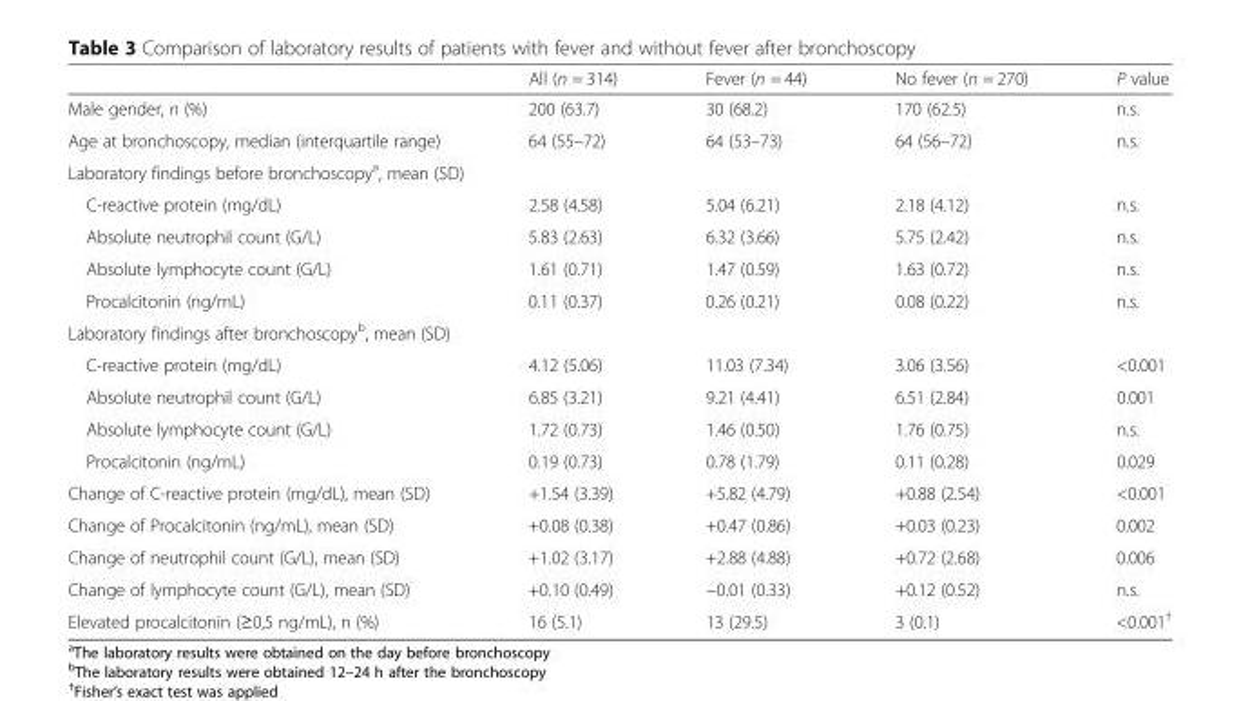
<table><thead><tr><td></td><td>All (n = 314)</td><td>Fever (n = 44)</td><td>No fever (n = 270)</td><td>P value</td></tr></thead><tbody><tr><td>Male gender, n (%)</td><td>200 (63.7)</td><td>30 (68.2)</td><td>170 (62.5)</td><td>n.s.</td></tr><tr><td>Age at bronchoscopy, median (interquartile range)</td><td>64 (55–72)</td><td>64 (53–73)</td><td>64 (56–72)</td><td>n.s.</td></tr><tr><td colspan="5">Laboratory findings before bronchoscopy<sup>a</sup>, mean (SD)</td></tr><tr><td>C-reactive protein (mg/dL)</td><td>2.58 (4.58)</td><td>5.04 (6.21)</td><td>2.18 (4.12)</td><td>n.s.</td></tr><tr><td>Absolute neutrophil count (G/L)</td><td>5.83 (2.63)</td><td>6.32 (3.66)</td><td>5.75 (2.42)</td><td>n.s.</td></tr><tr><td>Absolute lymphocyte count (G/L)</td><td>1.61 (0.71)</td><td>1.47 (0.59)</td><td>1.63 (0.72)</td><td>n.s.</td></tr><tr><td>Procalcitonin (ng/mL)</td><td>0.11 (0.37)</td><td>0.26 (0.21)</td><td>0.08 (0.22)</td><td>n.s.</td></tr><tr><td colspan="5">Laboratory findings after bronchoscopy<sup>b</sup>, mean (SD)</td></tr><tr><td>C-reactive protein (mg/dL)</td><td>4.12 (5.06)</td><td>11.03 (7.34)</td><td>3.06 (3.56)</td><td>&lt;0.001</td></tr><tr><td>Absolute neutrophil count (G/L)</td><td>6.85 (3.21)</td><td>9.21 (4.41)</td><td>6.51 (2.84)</td><td>0.001</td></tr><tr><td>Absolute lymphocyte count (G/L)</td><td>1.72 (0.73)</td><td>1.46 (0.50)</td><td>1.76 (0.75)</td><td>n.s.</td></tr><tr><td>Procalcitonin (ng/mL)</td><td>0.19 (0.73)</td><td>0.78 (1.79)</td><td>0.11 (0.28)</td><td>0.029</td></tr><tr><td>Change of C-reactive protein (mg/dL), mean (SD)</td><td>+1.54 (3.39)</td><td>+5.82 (4.79)</td><td>+0.88 (2.54)</td><td>&lt;0.001</td></tr><tr><td>Change of Procalcitonin (ng/mL), mean (SD)</td><td>+0.08 (0.38)</td><td>+0.47 (0.86)</td><td>+0.03 (0.23)</td><td>0.002</td></tr><tr><td>Change of neutrophil count (G/L), mean (SD)</td><td>+1.02 (3.17)</td><td>+2.88 (4.88)</td><td>+0.72 (2.68)</td><td>0.006</td></tr><tr><td>Change of lymphocyte count (G/L), mean (SD)</td><td>+0.10 (0.49)</td><td>−0.01 (0.33)</td><td>+0.12 (0.52)</td><td>n.s.</td></tr><tr><td>Elevated procalcitonin (≥0,5 ng/mL), n (%)</td><td>16 (5.1)</td><td>13 (29.5)</td><td>3 (0.1)</td><td>&lt;0.001<sup>†</sup></td></tr></tbody></table>